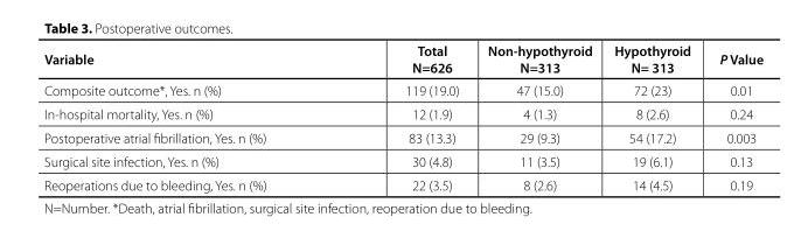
<table><thead><tr><td>Variable</td><td>Total N=626</td><td>Non-hypothyroid N=313</td><td>Hypothyroid N= 313</td><td>P Value</td></tr></thead><tbody><tr><td>Composite outcome*, Yes. n (%)</td><td>119 (19.0)</td><td>47 (15.0)</td><td>72 (23)</td><td>0.01</td></tr><tr><td>In-hospital mortality, Yes. n (%)</td><td>12 (1.9)</td><td>4 (1.3)</td><td>8 (2.6)</td><td>0.24</td></tr><tr><td>Postoperative atrial fibrillation, Yes. n (%)</td><td>83 (13.3)</td><td>29 (9.3)</td><td>54 (17.2)</td><td>0.003</td></tr><tr><td>Surgical site infection, Yes. n (%)</td><td>30 (4.8)</td><td>11 (3.5)</td><td>19 (6.1)</td><td>0.13</td></tr><tr><td>Reoperations due to bleeding, Yes. n (%)</td><td>22 (3.5)</td><td>8 (2.6)</td><td>14 (4.5)</td><td>0.19</td></tr></tbody></table>